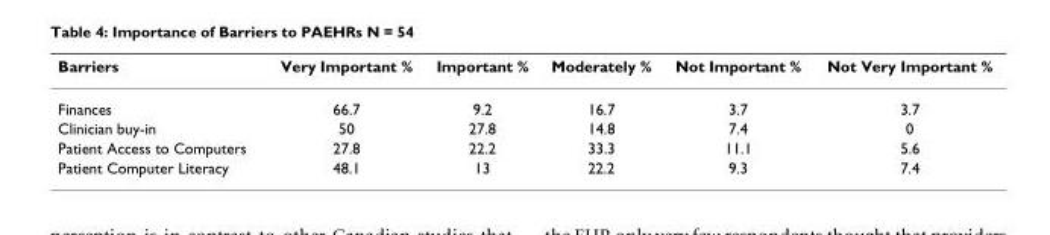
<table><thead><tr><td>Barriers</td><td>Very Important %</td><td>Important %</td><td>Moderately %</td><td>Not Important %</td><td>Not Very Important %</td></tr></thead><tbody><tr><td>Finances</td><td>66.7</td><td>9.2</td><td>16.7</td><td>3.7</td><td>3.7</td></tr><tr><td>Clinician buy-in</td><td>50</td><td>27.8</td><td>14.8</td><td>7.4</td><td>0</td></tr><tr><td>Patient Access to Computers</td><td>27.8</td><td>22.2</td><td>33.3</td><td>11.1</td><td>5.6</td></tr><tr><td>Patient Computer Literacy</td><td>48.1</td><td>13</td><td>22.2</td><td>9.3</td><td>7.4</td></tr></tbody></table>